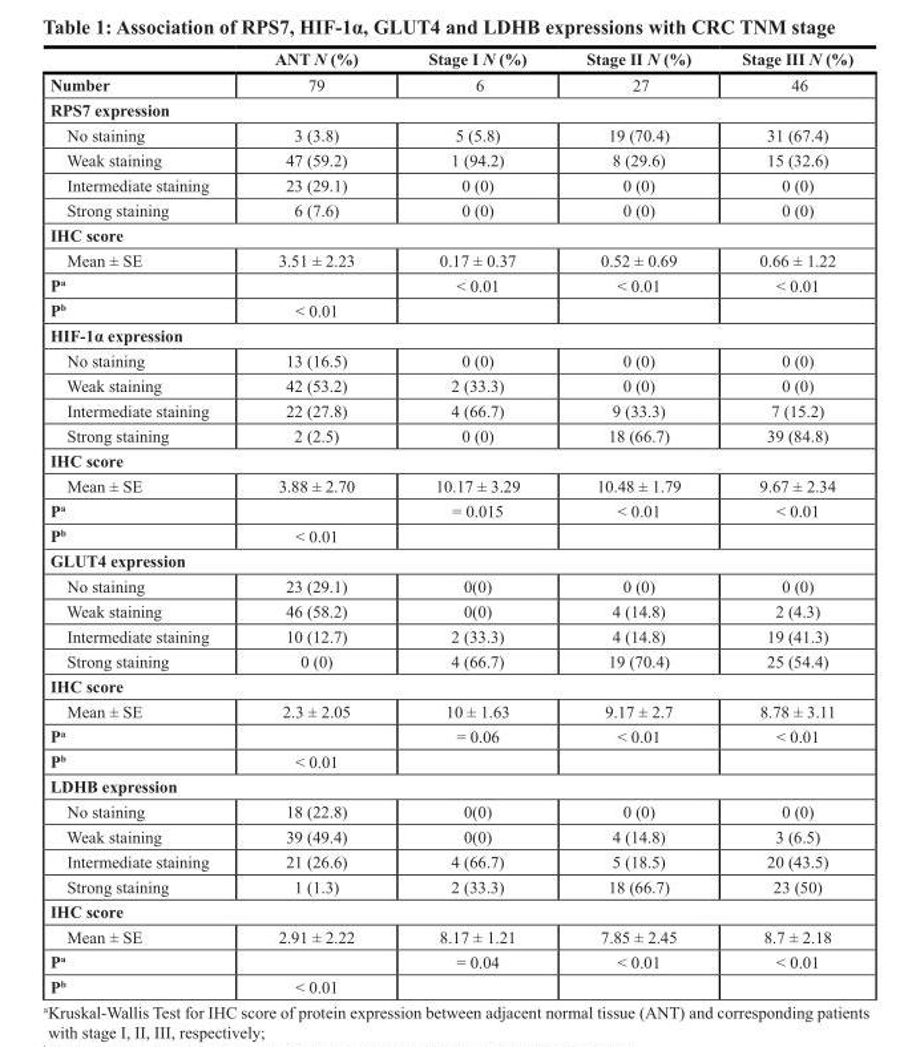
<table><thead><tr><td></td><td>ANT N (%)</td><td>Stage I N (%)</td><td>Stage II N (%)</td><td>Stage III N (%)</td></tr></thead><tbody><tr><td>Number</td><td>79</td><td>6</td><td>27</td><td>46</td></tr><tr><td colspan="5">RPS7 expression</td></tr><tr><td>No staining</td><td>3 (3.8)</td><td>5 (5.8)</td><td>19 (70.4)</td><td>31 (67.4)</td></tr><tr><td>Weak staining</td><td>47 (59.2)</td><td>1 (94.2)</td><td>8 (29.6)</td><td>15 (32.6)</td></tr><tr><td>Intermediate staining</td><td>23 (29.1)</td><td>0 (0)</td><td>0 (0)</td><td>0 (0)</td></tr><tr><td>Strong staining</td><td>6 (7.6)</td><td>0 (0)</td><td>0 (0)</td><td>0 (0)</td></tr><tr><td colspan="5">IHC score</td></tr><tr><td>Mean ± SE</td><td>3.51 ± 2.23</td><td>0.17 ± 0.37</td><td>0.52 ± 0.69</td><td>0.66 ± 1.22</td></tr><tr><td>P<sup>a</sup></td><td></td><td>&lt; 0.01</td><td>&lt; 0.01</td><td>&lt; 0.01</td></tr><tr><td>P<sup>b</sup></td><td>&lt; 0.01</td><td></td><td></td><td></td></tr><tr><td colspan="5">HIF-1α expression</td></tr><tr><td>No staining</td><td>13 (16.5)</td><td>0 (0)</td><td>0 (0)</td><td>0 (0)</td></tr><tr><td>Weak staining</td><td>42 (53.2)</td><td>2 (33.3)</td><td>0 (0)</td><td>0 (0)</td></tr><tr><td>Intermediate staining</td><td>22 (27.8)</td><td>4 (66.7)</td><td>9 (33.3)</td><td>7 (15.2)</td></tr><tr><td>Strong staining</td><td>2 (2.5)</td><td>0 (0)</td><td>18 (66.7)</td><td>39 (84.8)</td></tr><tr><td colspan="5">IHC score</td></tr><tr><td>Mean ± SE</td><td>3.88 ± 2.70</td><td>10.17 ± 3.29</td><td>10.48 ± 1.79</td><td>9.67 ± 2.34</td></tr><tr><td>P<sup>a</sup></td><td></td><td>= 0.015</td><td>&lt; 0.01</td><td>&lt; 0.01</td></tr><tr><td>P<sup>b</sup></td><td>&lt; 0.01</td><td></td><td></td><td></td></tr><tr><td colspan="5">GLUT4 expression</td></tr><tr><td>No staining</td><td>23 (29.1)</td><td>0(0)</td><td>0 (0)</td><td>0 (0)</td></tr><tr><td>Weak staining</td><td>46 (58.2)</td><td>0(0)</td><td>4 (14.8)</td><td>2 (4.3)</td></tr><tr><td>Intermediate staining</td><td>10 (12.7)</td><td>2 (33.3)</td><td>4 (14.8)</td><td>19 (41.3)</td></tr><tr><td>Strong staining</td><td>0 (0)</td><td>4 (66.7)</td><td>19 (70.4)</td><td>25 (54.4)</td></tr><tr><td colspan="5">IHC score</td></tr><tr><td>Mean ± SE</td><td>2.3 ± 2.05</td><td>10 ± 1.63</td><td>9.17 ± 2.7</td><td>8.78 ± 3.11</td></tr><tr><td>P<sup>a</sup></td><td></td><td>= 0.06</td><td>&lt; 0.01</td><td>&lt; 0.01</td></tr><tr><td>P<sup>b</sup></td><td>&lt; 0.01</td><td></td><td></td><td></td></tr><tr><td colspan="5">LDHB expression</td></tr><tr><td>No staining</td><td>18 (22.8)</td><td>0(0)</td><td>0 (0)</td><td>0 (0)</td></tr><tr><td>Weak staining</td><td>39 (49.4)</td><td>0(0)</td><td>4 (14.8)</td><td>3 (6.5)</td></tr><tr><td>Intermediate staining</td><td>21 (26.6)</td><td>4 (66.7)</td><td>5 (18.5)</td><td>20 (43.5)</td></tr><tr><td>Strong staining</td><td>1 (1.3)</td><td>2 (33.3)</td><td>18 (66.7)</td><td>23 (50)</td></tr><tr><td colspan="5">IHC score</td></tr><tr><td>Mean ± SE</td><td>2.91 ± 2.22</td><td>8.17 ± 1.21</td><td>7.85 ± 2.45</td><td>8.7 ± 2.18</td></tr><tr><td>P<sup>a</sup></td><td></td><td>= 0.04</td><td>&lt; 0.01</td><td>&lt; 0.01</td></tr><tr><td>P<sup>b</sup></td><td>&lt; 0.01</td><td></td><td></td><td></td></tr></tbody></table>